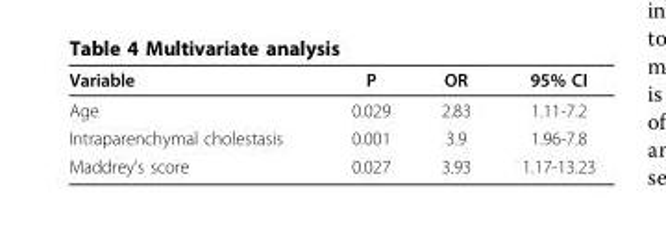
<table><thead><tr><td>Variable</td><td>P</td><td>OR</td><td>95% CI</td></tr></thead><tbody><tr><td>Age</td><td>0.029</td><td>2.83</td><td>1.11-7.2</td></tr><tr><td>Intraparenchymal cholestasis</td><td>0.001</td><td>3.9</td><td>1.96-7.8</td></tr><tr><td>Maddrey’s score</td><td>0.027</td><td>3.93</td><td>1.17-13.23</td></tr></tbody></table>